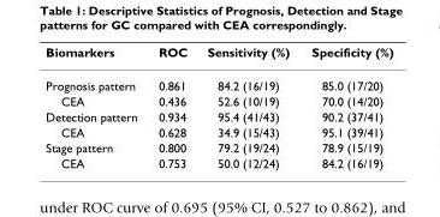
<table><thead><tr><td>Biomarkers</td><td>ROC</td><td>Sensitivity (%)</td><td>Specificity (%)</td></tr></thead><tbody><tr><td>Prognosis pattern</td><td>0.861</td><td>84.2 (16/19)</td><td>85.0 (17/20)</td></tr><tr><td>CEA</td><td>0.436</td><td>52.6 (10/19)</td><td>70.0 (14/20)</td></tr><tr><td>Detection pattern</td><td>0.934</td><td>95.4 (41/43)</td><td>90.2 (37/41)</td></tr><tr><td>CEA</td><td>0.628</td><td>34.9 (15/43)</td><td>95.1 (39/41)</td></tr><tr><td>Stage pattern</td><td>0.800</td><td>79.2 (19/24)</td><td>78.9 (15/19)</td></tr><tr><td>CEA</td><td>0.753</td><td>50.0 (12/24)</td><td>84.2 (16/19)</td></tr></tbody></table>